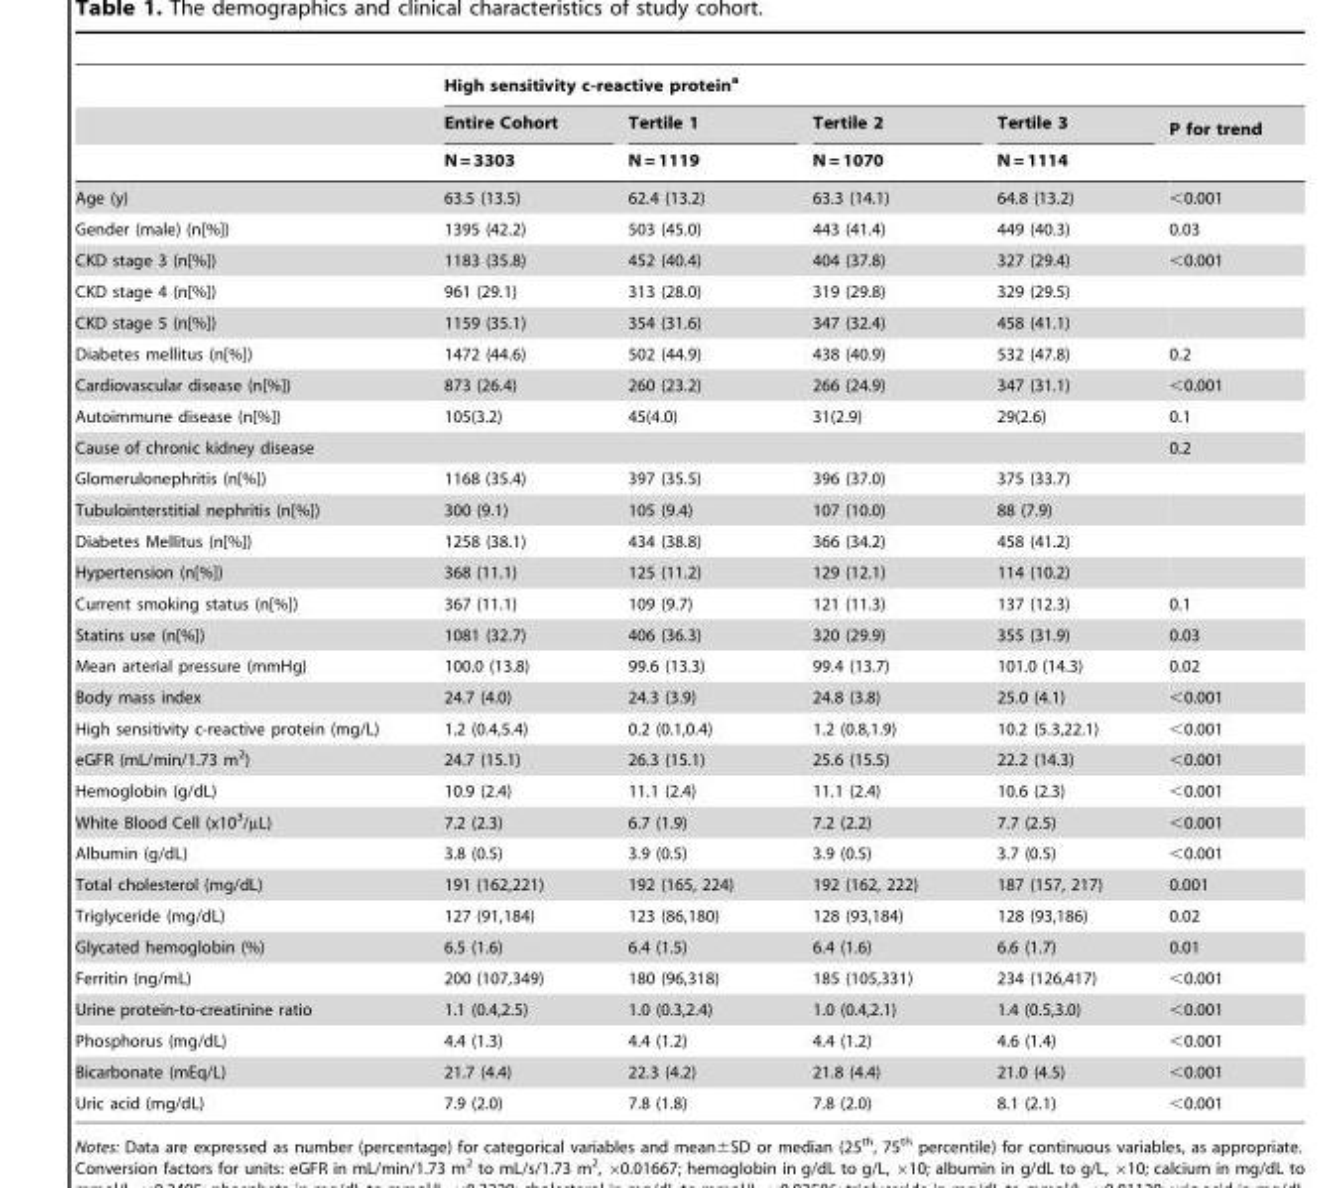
<table><thead><tr><td rowspan="3"></td><td colspan="5">High sensitivity c-reactive protein<sup>a</sup></td></tr><tr><td rowspan="2">Entire Cohort N = 3303</td><td rowspan="2">Tertile 1 N = 1119</td><td rowspan="2">Tertile 2 N = 1070</td><td rowspan="2">Tertile 3 N = 1114</td><td rowspan="2">P for trend</td></tr><tr></tr></thead><tbody><tr><td>Age (y)</td><td>63.5 (13.5)</td><td>62.4 (13.2)</td><td>63.3 (14.1)</td><td>64.8 (13.2)</td><td>&lt;0.001</td></tr><tr><td>Gender (male) (n[%])</td><td>1395 (42.2)</td><td>503 (45.0)</td><td>443 (41.4)</td><td>449 (40.3)</td><td>0.03</td></tr><tr><td>CKD stage 3 (n[%])</td><td>1183 (35.8)</td><td>452 (40.4)</td><td>404 (37.8)</td><td>327 (29.4)</td><td>&lt;0.001</td></tr><tr><td>CKD stage 4 (n[%])</td><td>961 (29.1)</td><td>313 (28.0)</td><td>319 (29.8)</td><td>329 (29.5)</td><td></td></tr><tr><td>CKD stage 5 (n[%])</td><td>1159 (35.1)</td><td>354 (31.6)</td><td>347 (32.4)</td><td>458 (41.1)</td><td></td></tr><tr><td>Diabetes mellitus (n[%])</td><td>1472 (44.6)</td><td>502 (44.9)</td><td>438 (40.9)</td><td>532 (47.8)</td><td>0.2</td></tr><tr><td>Cardiovascular disease (n[%])</td><td>873 (26.4)</td><td>260 (23.2)</td><td>266 (24.9)</td><td>347 (31.1)</td><td>&lt;0.001</td></tr><tr><td>Autoimmune disease (n[%])</td><td>105(3.2)</td><td>45(4.0)</td><td>31(2.9)</td><td>29(2.6)</td><td>0.1</td></tr><tr><td>Cause of chronic kidney disease</td><td colspan="4"></td><td>0.2</td></tr><tr><td>Glomerulonephritis (n[%])</td><td>1168 (35.4)</td><td>397 (35.5)</td><td>396 (37.0)</td><td>375 (33.7)</td><td></td></tr><tr><td>Tubulointerstitial nephritis (n[%])</td><td>300 (9.1)</td><td>105 (9.4)</td><td>107 (10.0)</td><td>88 (7.9)</td><td></td></tr><tr><td>Diabetes Mellitus (n[%])</td><td>1258 (38.1)</td><td>434 (38.8)</td><td>366 (34.2)</td><td>458 (41.2)</td><td></td></tr><tr><td>Hypertension (n[%])</td><td>368 (11.1)</td><td>125 (11.2)</td><td>129 (12.1)</td><td>114 (10.2)</td><td></td></tr><tr><td>Current smoking status (n[%])</td><td>367 (11.1)</td><td>109 (9.7)</td><td>121 (11.3)</td><td>137 (12.3)</td><td>0.1</td></tr><tr><td>Statins use (n[%])</td><td>1081 (32.7)</td><td>406 (36.3)</td><td>320 (29.9)</td><td>355 (31.9)</td><td>0.03</td></tr><tr><td>Mean arterial pressure (mmHg)</td><td>100.0 (13.8)</td><td>99.6 (13.3)</td><td>99.4 (13.7)</td><td>101.0 (14.3)</td><td>0.02</td></tr><tr><td>Body mass index</td><td>24.7 (4.0)</td><td>24.3 (3.9)</td><td>24.8 (3.8)</td><td>25.0 (4.1)</td><td>&lt;0.001</td></tr><tr><td>High sensitivity c-reactive protein (mg/L)</td><td>1.2 (0.4,5.4)</td><td>0.2 (0.1,0.4)</td><td>1.2 (0.8,1.9)</td><td>10.2 (5.3,22.1)</td><td>&lt;0.001</td></tr><tr><td>eGFR (mL/min/1.73 m<sup>2</sup>)</td><td>24.7 (15.1)</td><td>26.3 (15.1)</td><td>25.6 (15.5)</td><td>22.2 (14.3)</td><td>&lt;0.001</td></tr><tr><td>Hemoglobin (g/dL)</td><td>10.9 (2.4)</td><td>11.1 (2.4)</td><td>11.1 (2.4)</td><td>10.6 (2.3)</td><td>&lt;0.001</td></tr><tr><td>White Blood Cell (x10<sup>3</sup>/µL)</td><td>7.2 (2.3)</td><td>6.7 (1.9)</td><td>7.2 (2.2)</td><td>7.7 (2.5)</td><td>&lt;0.001</td></tr><tr><td>Albumin (g/dL)</td><td>3.8 (0.5)</td><td>3.9 (0.5)</td><td>3.9 (0.5)</td><td>3.7 (0.5)</td><td>&lt;0.001</td></tr><tr><td>Total cholesterol (mg/dL)</td><td>191 (162,221)</td><td>192 (165, 224)</td><td>192 (162, 222)</td><td>187 (157, 217)</td><td>0.001</td></tr><tr><td>Triglyceride (mg/dL)</td><td>127 (91,184)</td><td>123 (86,180)</td><td>128 (93,184)</td><td>128 (93,186)</td><td>0.02</td></tr><tr><td>Glycated hemoglobin (%)</td><td>6.5 (1.6)</td><td>6.4 (1.5)</td><td>6.4 (1.6)</td><td>6.6 (1.7)</td><td>0.01</td></tr><tr><td>Ferritin (ng/mL)</td><td>200 (107,349)</td><td>180 (96,318)</td><td>185 (105,331)</td><td>234 (126,417)</td><td>&lt;0.001</td></tr><tr><td>Urine protein-to-creatinine ratio</td><td>1.1 (0.4,2.5)</td><td>1.0 (0.3,2.4)</td><td>1.0 (0.4,2.1)</td><td>1.4 (0.5,3.0)</td><td>&lt;0.001</td></tr><tr><td>Phosphorus (mg/dL)</td><td>4.4 (1.3)</td><td>4.4 (1.2)</td><td>4.4 (1.2)</td><td>4.6 (1.4)</td><td>&lt;0.001</td></tr><tr><td>Bicarbonate (mEq/L)</td><td>21.7 (4.4)</td><td>22.3 (4.2)</td><td>21.8 (4.4)</td><td>21.0 (4.5)</td><td>&lt;0.001</td></tr><tr><td>Uric acid (mg/dL)</td><td>7.9 (2.0)</td><td>7.8 (1.8)</td><td>7.8 (2.0)</td><td>8.1 (2.1)</td><td>&lt;0.001</td></tr></tbody></table>